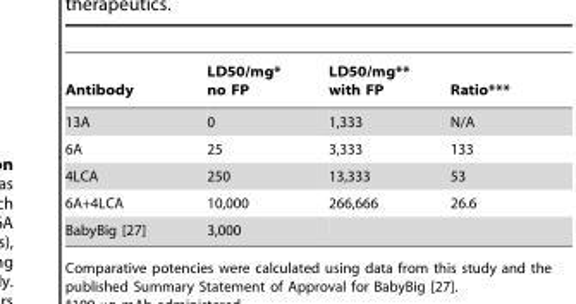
<table><thead><tr><td>Antibody</td><td>LD50/mg* no FP</td><td>LD50/mg** with FP</td><td>Ratio***</td></tr></thead><tbody><tr><td>13A</td><td>0</td><td>1,333</td><td>N/A</td></tr><tr><td>6A</td><td>25</td><td>3,333</td><td>133</td></tr><tr><td>4LCA</td><td>250</td><td>13,333</td><td>53</td></tr><tr><td>6A+4LCA</td><td>10,000</td><td>266,666</td><td>26.6</td></tr><tr><td>BabyBig [27]</td><td>3,000</td><td></td><td></td></tr></tbody></table>